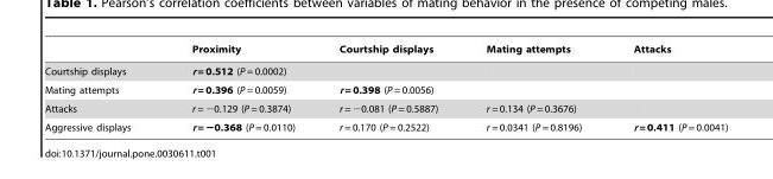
<table><thead><tr><td></td><td>Proximity</td><td>Courtship displays</td><td>Mating attempts</td><td>Attacks</td></tr></thead><tbody><tr><td>Courtship displays</td><td>r = 0.512 (P = 0.0002)</td><td></td><td></td><td></td></tr><tr><td>Mating attempts</td><td>r = 0.396 (P = 0.0059)</td><td>r = 0.398 (P = 0.0056)</td><td></td><td></td></tr><tr><td>Attacks</td><td>r = −0.129 (P = 0.3874)</td><td>r = −0.081 (P = 0.5887)</td><td>r = 0.134 (P = 0.3676)</td><td></td></tr><tr><td>Aggressive displays</td><td>r = −0.368 (P = 0.0110)</td><td>r = 0.170 (P = 0.2522)</td><td>r = 0.0341 (P = 0.8196)</td><td>r = 0.411 (P = 0.0041)</td></tr></tbody></table>